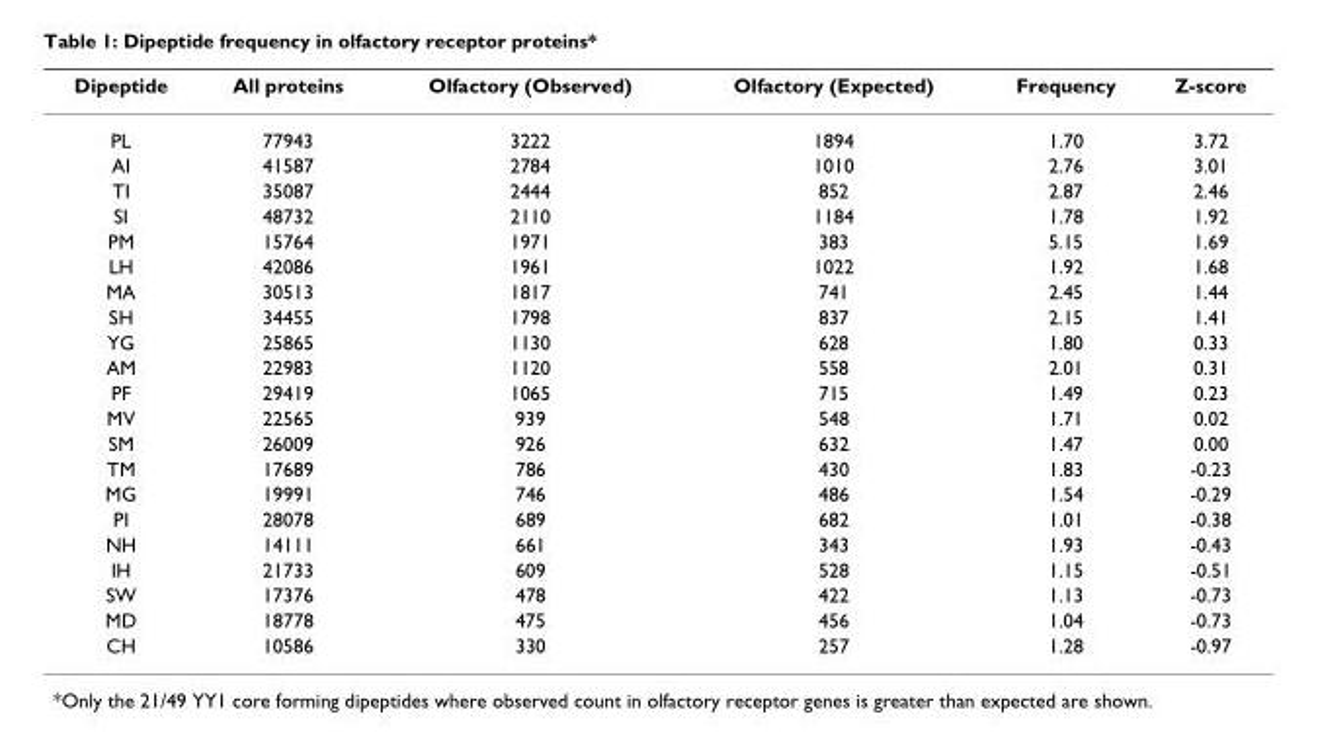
<table><thead><tr><td>Dipeptide</td><td>All proteins</td><td>Olfactory (Observed)</td><td>Olfactory (Expected)</td><td>Frequency</td><td>Z-score</td></tr></thead><tbody><tr><td>PL</td><td>77943</td><td>3222</td><td>1894</td><td>1.70</td><td>3.72</td></tr><tr><td>AI</td><td>41587</td><td>2784</td><td>1010</td><td>2.76</td><td>3.01</td></tr><tr><td>TI</td><td>35087</td><td>2444</td><td>852</td><td>2.87</td><td>2.46</td></tr><tr><td>SI</td><td>48732</td><td>2110</td><td>1184</td><td>1.78</td><td>1.92</td></tr><tr><td>PM</td><td>15764</td><td>1971</td><td>383</td><td>5.15</td><td>1.69</td></tr><tr><td>LH</td><td>42086</td><td>1961</td><td>1022</td><td>1.92</td><td>1.68</td></tr><tr><td>MA</td><td>30513</td><td>1817</td><td>741</td><td>2.45</td><td>1.44</td></tr><tr><td>SH</td><td>34455</td><td>1798</td><td>837</td><td>2.15</td><td>1.41</td></tr><tr><td>YG</td><td>25865</td><td>1130</td><td>628</td><td>1.80</td><td>0.33</td></tr><tr><td>AM</td><td>22983</td><td>1120</td><td>558</td><td>2.01</td><td>0.31</td></tr><tr><td>PF</td><td>29419</td><td>1065</td><td>715</td><td>1.49</td><td>0.23</td></tr><tr><td>MV</td><td>22565</td><td>939</td><td>548</td><td>1.71</td><td>0.02</td></tr><tr><td>SM</td><td>26009</td><td>926</td><td>632</td><td>1.47</td><td>0.00</td></tr><tr><td>TM</td><td>17689</td><td>786</td><td>430</td><td>1.83</td><td>-0.23</td></tr><tr><td>MG</td><td>19991</td><td>746</td><td>486</td><td>1.54</td><td>-0.29</td></tr><tr><td>PI</td><td>28078</td><td>689</td><td>682</td><td>1.01</td><td>-0.38</td></tr><tr><td>NH</td><td>14111</td><td>661</td><td>343</td><td>1.93</td><td>-0.43</td></tr><tr><td>IH</td><td>21733</td><td>609</td><td>528</td><td>1.15</td><td>-0.51</td></tr><tr><td>SW</td><td>17376</td><td>478</td><td>422</td><td>1.13</td><td>-0.73</td></tr><tr><td>MD</td><td>18778</td><td>475</td><td>456</td><td>1.04</td><td>-0.73</td></tr><tr><td>CH</td><td>10586</td><td>330</td><td>257</td><td>1.28</td><td>-0.97</td></tr></tbody></table>